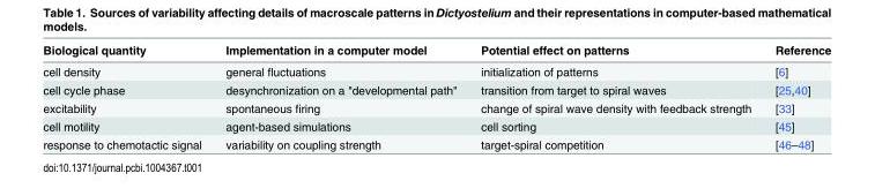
<table><thead><tr><td>Biological quantity</td><td>Implementation in a computer model</td><td>Potential effect on patterns</td><td>Reference</td></tr></thead><tbody><tr><td>cell density</td><td>general fluctuations</td><td>initialization of patterns</td><td>[6]</td></tr><tr><td>cell cycle phase</td><td>desynchronization on a &quot;developmental path&quot;</td><td>transition from target to spiral waves</td><td>[25,40]</td></tr><tr><td>excitability</td><td>spontaneous firing</td><td>change of spiral wave density with feedback strength</td><td>[33]</td></tr><tr><td>cell motility</td><td>agent-based simulations</td><td>cell sorting</td><td>[45]</td></tr><tr><td>response to chemotactic signal</td><td>variability on coupling strength</td><td>target-spiral competition</td><td>[46–48]</td></tr></tbody></table>